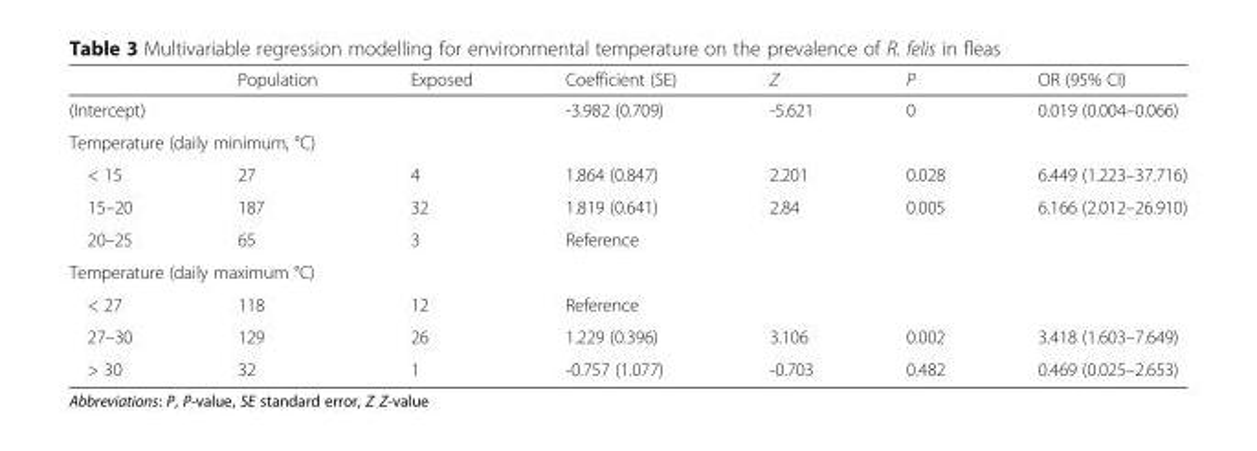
<table><thead><tr><td></td><td>Population</td><td>Exposed</td><td>Coefficient (SE)</td><td>Z</td><td>P</td><td>OR (95% CI)</td></tr></thead><tbody><tr><td>(Intercept)</td><td></td><td></td><td>-3.982 (0.709)</td><td>-5.621</td><td>0</td><td>0.019 (0.004–0.066)</td></tr><tr><td colspan="7">Temperature (daily minimum, °C)</td></tr><tr><td>&lt; 15</td><td>27</td><td>4</td><td>1.864 (0.847)</td><td>2.201</td><td>0.028</td><td>6.449 (1.223–37.716)</td></tr><tr><td>15–20</td><td>187</td><td>32</td><td>1.819 (0.641)</td><td>2.84</td><td>0.005</td><td>6.166 (2.012–26.910)</td></tr><tr><td>20–25</td><td>65</td><td>3</td><td>Reference</td><td></td><td></td><td></td></tr><tr><td colspan="7">Temperature (daily maximum °C)</td></tr><tr><td>&lt; 27</td><td>118</td><td>12</td><td>Reference</td><td></td><td></td><td></td></tr><tr><td>27–30</td><td>129</td><td>26</td><td>1.229 (0.396)</td><td>3.106</td><td>0.002</td><td>3.418 (1.603–7.649)</td></tr><tr><td>&gt; 30</td><td>32</td><td>1</td><td>-0.757 (1.077)</td><td>-0.703</td><td>0.482</td><td>0.469 (0.025–2.653)</td></tr></tbody></table>